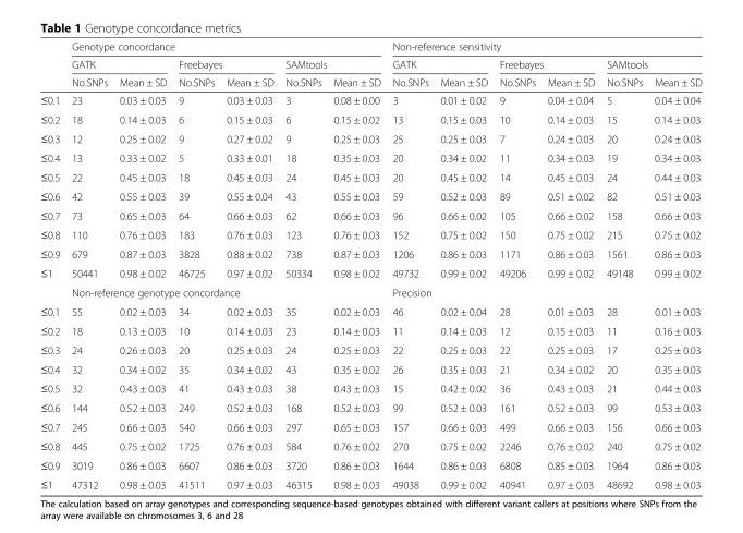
<table><thead><tr><td rowspan="3"></td><td colspan="6">Genotype concordance</td><td colspan="6">Non-reference sensitivity</td></tr><tr><td colspan="2">GATK</td><td colspan="2">Freebayes</td><td colspan="2">SAMtools</td><td colspan="2">GATK</td><td colspan="2">Freebayes</td><td colspan="2">SAMtools</td></tr><tr><td>No.SNPs</td><td>Mean ± SD</td><td>No.SNPs</td><td>Mean ± SD</td><td>No.SNPs</td><td>Mean ± SD</td><td>No.SNPs</td><td>Mean ± SD</td><td>No.SNPs</td><td>Mean ± SD</td><td>No.SNPs</td><td>Mean ± SD</td></tr></thead><tbody><tr><td>≤0.1</td><td>23</td><td>0.03 ± 0.03</td><td>9</td><td>0.03 ± 0.03</td><td>3</td><td>0.08 ± 0.00</td><td>3</td><td>0.01 ± 0.02</td><td>9</td><td>0.04 ± 0.04</td><td>5</td><td>0.04 ± 0.04</td></tr><tr><td>≤0.2</td><td>18</td><td>0.14 ± 0.03</td><td>6</td><td>0.15 ± 0.03</td><td>6</td><td>0.15 ± 0.02</td><td>13</td><td>0.15 ± 0.03</td><td>10</td><td>0.14 ± 0.03</td><td>15</td><td>0.14 ± 0.03</td></tr><tr><td>≤0.3</td><td>12</td><td>0.25 ± 0.02</td><td>9</td><td>0.27 ± 0.02</td><td>9</td><td>0.25 ± 0.03</td><td>25</td><td>0.25 ± 0.03</td><td>7</td><td>0.24 ± 0.03</td><td>20</td><td>0.24 ± 0.03</td></tr><tr><td>≤0.4</td><td>13</td><td>0.33 ± 0.02</td><td>5</td><td>0.33 ± 0.01</td><td>18</td><td>0.35 ± 0.03</td><td>20</td><td>0.34 ± 0.02</td><td>11</td><td>0.34 ± 0.03</td><td>19</td><td>0.34 ± 0.03</td></tr><tr><td>≤0.5</td><td>22</td><td>0.45 ± 0.03</td><td>18</td><td>0.45 ± 0.03</td><td>24</td><td>0.45 ± 0.03</td><td>20</td><td>0.45 ± 0.02</td><td>14</td><td>0.45 ± 0.03</td><td>24</td><td>0.44 ± 0.03</td></tr><tr><td>≤0.6</td><td>42</td><td>0.55 ± 0.03</td><td>39</td><td>0.55 ± 0.04</td><td>43</td><td>0.55 ± 0.03</td><td>59</td><td>0.52 ± 0.03</td><td>89</td><td>0.51 ± 0.02</td><td>82</td><td>0.51 ± 0.03</td></tr><tr><td>≤0.7</td><td>73</td><td>0.65 ± 0.03</td><td>64</td><td>0.66 ± 0.03</td><td>62</td><td>0.66 ± 0.03</td><td>96</td><td>0.66 ± 0.02</td><td>105</td><td>0.66 ± 0.02</td><td>158</td><td>0.66 ± 0.03</td></tr><tr><td>≤0.8</td><td>110</td><td>0.76 ± 0.03</td><td>183</td><td>0.76 ± 0.03</td><td>123</td><td>0.76 ± 0.03</td><td>152</td><td>0.75 ± 0.02</td><td>150</td><td>0.75 ± 0.02</td><td>215</td><td>0.75 ± 0.02</td></tr><tr><td>≤0.9</td><td>679</td><td>0.87 ± 0.03</td><td>3828</td><td>0.88 ± 0.02</td><td>738</td><td>0.87 ± 0.03</td><td>1206</td><td>0.86 ± 0.03</td><td>1171</td><td>0.86 ± 0.03</td><td>1561</td><td>0.86 ± 0.03</td></tr><tr><td rowspan="2">≤1</td><td>50441</td><td>0.98 ± 0.02</td><td>46725</td><td>0.97 ± 0.02</td><td>50334</td><td>0.98 ± 0.02</td><td>49732</td><td>0.99 ± 0.02</td><td>49206</td><td>0.99 ± 0.02</td><td>49148</td><td>0.99 ± 0.02</td></tr><tr><td colspan="6">Non-reference genotype concordance</td><td colspan="6">Precision</td></tr><tr><td>≤0.1</td><td>55</td><td>0.02 ± 0.03</td><td>34</td><td>0.02 ± 0.03</td><td>35</td><td>0.02 ± 0.03</td><td>46</td><td>0.02 ± 0.04</td><td>28</td><td>0.01 ± 0.03</td><td>28</td><td>0.01 ± 0.03</td></tr><tr><td>≤0.2</td><td>18</td><td>0.13 ± 0.03</td><td>10</td><td>0.14 ± 0.03</td><td>23</td><td>0.14 ± 0.03</td><td>11</td><td>0.14 ± 0.03</td><td>12</td><td>0.15 ± 0.03</td><td>11</td><td>0.16 ± 0.03</td></tr><tr><td>≤0.3</td><td>24</td><td>0.26 ± 0.03</td><td>20</td><td>0.25 ± 0.03</td><td>24</td><td>0.25 ± 0.03</td><td>22</td><td>0.25 ± 0.03</td><td>22</td><td>0.25 ± 0.03</td><td>17</td><td>0.25 ± 0.03</td></tr><tr><td>≤0.4</td><td>32</td><td>0.34 ± 0.02</td><td>35</td><td>0.34 ± 0.02</td><td>43</td><td>0.35 ± 0.02</td><td>26</td><td>0.35 ± 0.03</td><td>21</td><td>0.34 ± 0.02</td><td>20</td><td>0.35 ± 0.03</td></tr><tr><td>≤0.5</td><td>32</td><td>0.43 ± 0.03</td><td>41</td><td>0.43 ± 0.03</td><td>38</td><td>0.43 ± 0.03</td><td>15</td><td>0.42 ± 0.02</td><td>36</td><td>0.43 ± 0.03</td><td>21</td><td>0.44 ± 0.03</td></tr><tr><td>≤0.6</td><td>144</td><td>0.52 ± 0.03</td><td>249</td><td>0.52 ± 0.03</td><td>168</td><td>0.52 ± 0.03</td><td>99</td><td>0.52 ± 0.03</td><td>161</td><td>0.52 ± 0.03</td><td>99</td><td>0.53 ± 0.03</td></tr><tr><td>≤0.7</td><td>245</td><td>0.66 ± 0.03</td><td>540</td><td>0.66 ± 0.03</td><td>297</td><td>0.65 ± 0.03</td><td>157</td><td>0.66 ± 0.03</td><td>499</td><td>0.66 ± 0.03</td><td>156</td><td>0.66 ± 0.03</td></tr><tr><td>≤0.8</td><td>445</td><td>0.75 ± 0.02</td><td>1725</td><td>0.76 ± 0.03</td><td>584</td><td>0.76 ± 0.02</td><td>270</td><td>0.75 ± 0.02</td><td>2246</td><td>0.76 ± 0.02</td><td>240</td><td>0.75 ± 0.02</td></tr><tr><td>≤0.9</td><td>3019</td><td>0.86 ± 0.03</td><td>6607</td><td>0.86 ± 0.03</td><td>3720</td><td>0.86 ± 0.03</td><td>1644</td><td>0.86 ± 0.03</td><td>6808</td><td>0.85 ± 0.03</td><td>1964</td><td>0.86 ± 0.03</td></tr><tr><td>≤1</td><td>47312</td><td>0.98 ± 0.03</td><td>41511</td><td>0.97 ± 0.03</td><td>46315</td><td>0.98 ± 0.03</td><td>49038</td><td>0.99 ± 0.02</td><td>40941</td><td>0.97 ± 0.03</td><td>48692</td><td>0.98 ± 0.03</td></tr></tbody></table>